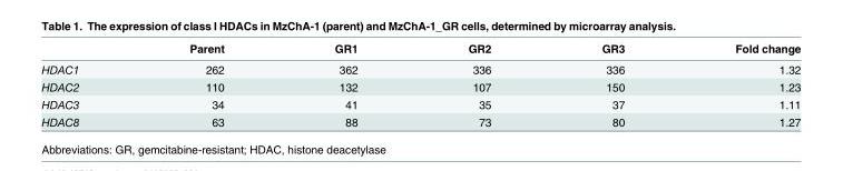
<table><thead><tr><td></td><td>Parent</td><td>GR1</td><td>GR2</td><td>GR3</td><td>Fold change</td></tr></thead><tbody><tr><td>HDAC1</td><td>262</td><td>362</td><td>336</td><td>336</td><td>1.32</td></tr><tr><td>HDAC2</td><td>110</td><td>132</td><td>107</td><td>150</td><td>1.23</td></tr><tr><td>HDAC3</td><td>34</td><td>41</td><td>35</td><td>37</td><td>1.11</td></tr><tr><td>HDAC8</td><td>63</td><td>88</td><td>73</td><td>80</td><td>1.27</td></tr></tbody></table>